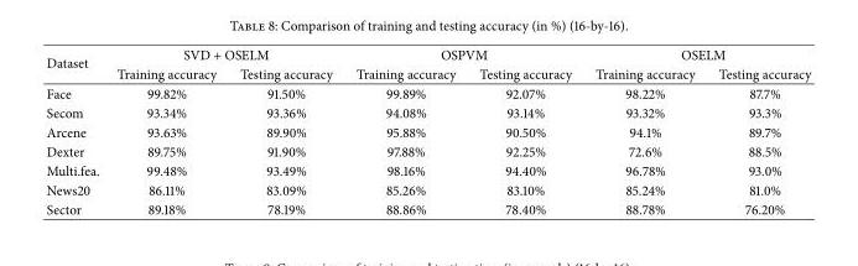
<table><thead><tr><td rowspan="2">Dataset</td><td colspan="2">SVD + OSELM</td><td colspan="2">OSPVM</td><td colspan="2">OSELM</td></tr><tr><td>Training accuracy</td><td>Testing accuracy</td><td>Training accuracy</td><td>Testing accuracy</td><td>Training accuracy</td><td>Testing accuracy</td></tr></thead><tbody><tr><td>Face</td><td>99.82%</td><td>91.50%</td><td>99.89%</td><td>92.07%</td><td>98.22%</td><td>87.7%</td></tr><tr><td>Secom</td><td>93.34%</td><td>93.36%</td><td>94.08%</td><td>93.14%</td><td>93.32%</td><td>93.3%</td></tr><tr><td>Arcene</td><td>93.63%</td><td>89.90%</td><td>95.88%</td><td>90.50%</td><td>94.1%</td><td>89.7%</td></tr><tr><td>Dexter</td><td>89.75%</td><td>91.90%</td><td>97.88%</td><td>92.25%</td><td>72.6%</td><td>88.5%</td></tr><tr><td>Multi.fea.</td><td>99.48%</td><td>93.49%</td><td>98.16%</td><td>94.40%</td><td>96.78%</td><td>93.0%</td></tr><tr><td>News20</td><td>86.11%</td><td>83.09%</td><td>85.26%</td><td>83.10%</td><td>85.24%</td><td>81.0%</td></tr><tr><td>Sector</td><td>89.18%</td><td>78.19%</td><td>88.86%</td><td>78.40%</td><td>88.78%</td><td>76.20%</td></tr></tbody></table>